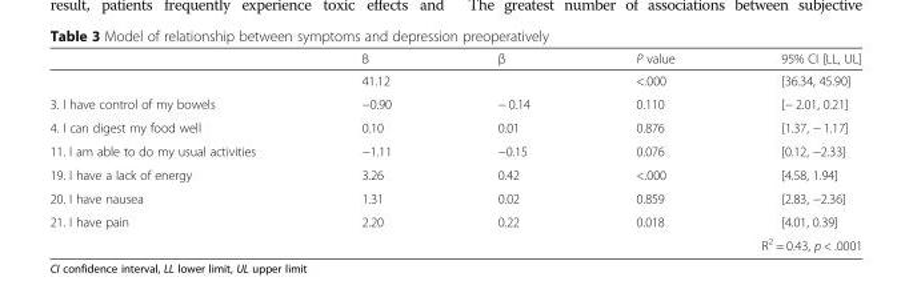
<table><thead><tr><td></td><td>B</td><td>β</td><td>P value</td><td>95% CI [LL, UL]</td></tr></thead><tbody><tr><td></td><td>41.12</td><td></td><td>&lt;.000</td><td>[36.34, 45.90]</td></tr><tr><td>3. I have control of my bowels</td><td>−0.90</td><td>− 0.14</td><td>0.110</td><td>[− 2.01, 0.21]</td></tr><tr><td>4. I can digest my food well</td><td>0.10</td><td>0.01</td><td>0.876</td><td>[1.37, − 1.17]</td></tr><tr><td>11. I am able to do my usual activities</td><td>−1.11</td><td>−0.15</td><td>0.076</td><td>[0.12, −2.33]</td></tr><tr><td>19. I have a lack of energy</td><td>3.26</td><td>0.42</td><td>&lt;.000</td><td>[4.58, 1.94]</td></tr><tr><td>20. I have nausea</td><td>1.31</td><td>0.02</td><td>0.859</td><td>[2.83, −2.36]</td></tr><tr><td>21. I have pain</td><td>2.20</td><td>0.22</td><td>0.018</td><td>[4.01, 0.39]</td></tr><tr><td colspan="5">R<sup>2</sup> = 0.43, p &lt; .0001</td></tr></tbody></table>